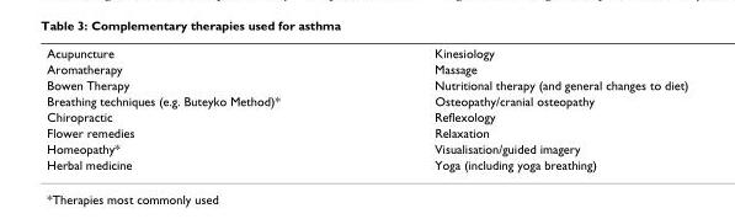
<table><tbody><tr><td>Acupuncture</td><td>Kinesiology</td></tr><tr><td>Aromatherapy</td><td>Massage</td></tr><tr><td>Bowen Therapy</td><td>Nutritional therapy (and general changes to diet)</td></tr><tr><td>Breathing techniques (e.g. Buteyko Method)*</td><td>Osteopathy/cranial osteopathy</td></tr><tr><td>Chiropractic</td><td>Reflexology</td></tr><tr><td>Flower remedies</td><td>Relaxation</td></tr><tr><td>Homeopathy*</td><td>Visualisation/guided imagery</td></tr><tr><td>Herbal medicine</td><td>Yoga (including yoga breathing)</td></tr></tbody></table>